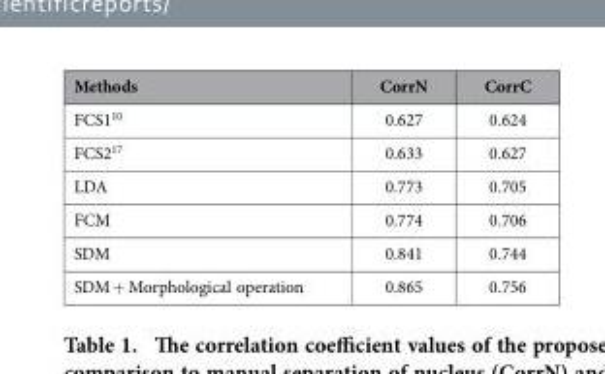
<table><thead><tr><td>Methods</td><td>CorrN</td><td>CorrC</td></tr></thead><tbody><tr><td>FCS1<sup>10</sup></td><td>0.627</td><td>0.624</td></tr><tr><td>FCS2<sup>17</sup></td><td>0.633</td><td>0.627</td></tr><tr><td>LDA</td><td>0.773</td><td>0.705</td></tr><tr><td>FCM</td><td>0.774</td><td>0.706</td></tr><tr><td>SDM</td><td>0.841</td><td>0.744</td></tr><tr><td>SDM + Morphological operation</td><td>0.865</td><td>0.756</td></tr></tbody></table>